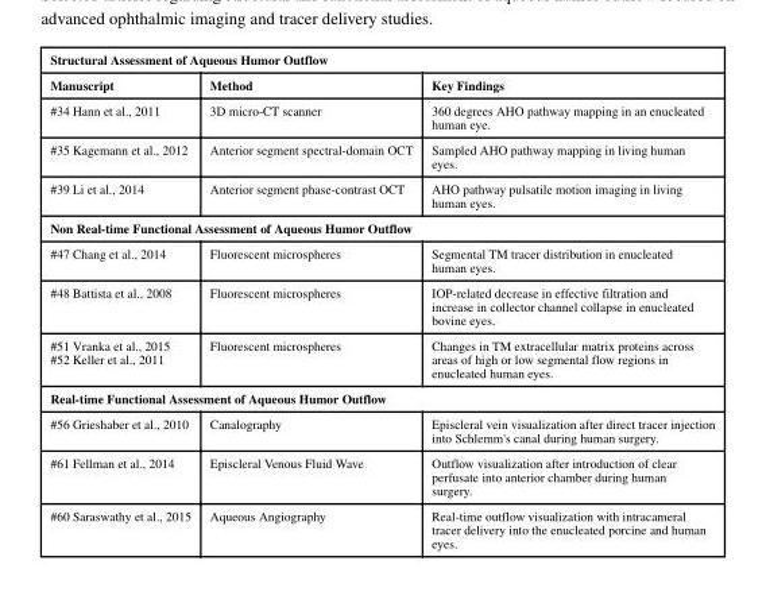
<table><thead><tr><td colspan="3">Structural Assessment of Aqueous Humor Outflow</td></tr><tr><td>Manuscript</td><td>Method</td><td>Key Findings</td></tr></thead><tbody><tr><td>#<sup>34</sup> Hann et al., 2011</td><td>3D micro-CT scanner</td><td>360 degrees AHO pathway mapping in an enucleated human eye.</td></tr><tr><td>#<sup>35</sup> Kagemann et al., 2012</td><td>Anterior segment spectral-domain OCT</td><td>Sampled AHO pathway mapping in living human eyes.</td></tr><tr><td>#<sup>39</sup> Li et al., 2014</td><td>Anterior segment phase-contrast OCT</td><td>AHO pathway pulsatile motion imaging in living human eyes.</td></tr><tr><td colspan="3">Non Real-time Functional Assessment of Aqueous Humor Outflow</td></tr><tr><td>#<sup>47</sup> Chang et al., 2014</td><td>Fluorescent microspheres</td><td>Segmental TM tracer distribution in enucleated human eyes.</td></tr><tr><td>#48 Battista et al., 2008</td><td>Fluorescent microspheres</td><td>IOP-related decrease in effective filtration and increase in collector channel collapse in enucleated bovine eyes.</td></tr><tr><td>#<sup>51</sup> Vranka et al., 2015 #<sup>52</sup> Keller et al., 2011</td><td>Fluorescent microspheres</td><td>Changes in TM extracellular matrix proteins across areas of high or low segmental flow regions in enucleated human eyes.</td></tr><tr><td colspan="3">Real-time Functional Assessment of Aqueous Humor Outflow</td></tr><tr><td>#<sup>56</sup> Grieshaber et al., 2010</td><td>Canalography</td><td>Episcleral vein visualization after direct tracer injection into Schlemm&#x27;s canal during human surgery.</td></tr><tr><td>#<sup>61</sup> Fellman et al., 2014</td><td>Episcleral Venous Fluid Wave</td><td>Outflow visualization after introduction of clear perfusate into anterior chamber during human surgery.</td></tr><tr><td>#<sup>60</sup> Saraswathy et al., 2015</td><td>Aqueous Angiography</td><td>Real-time outflow visualization with intracameral tracer delivery into the enucleated porcine and human eyes.</td></tr></tbody></table>